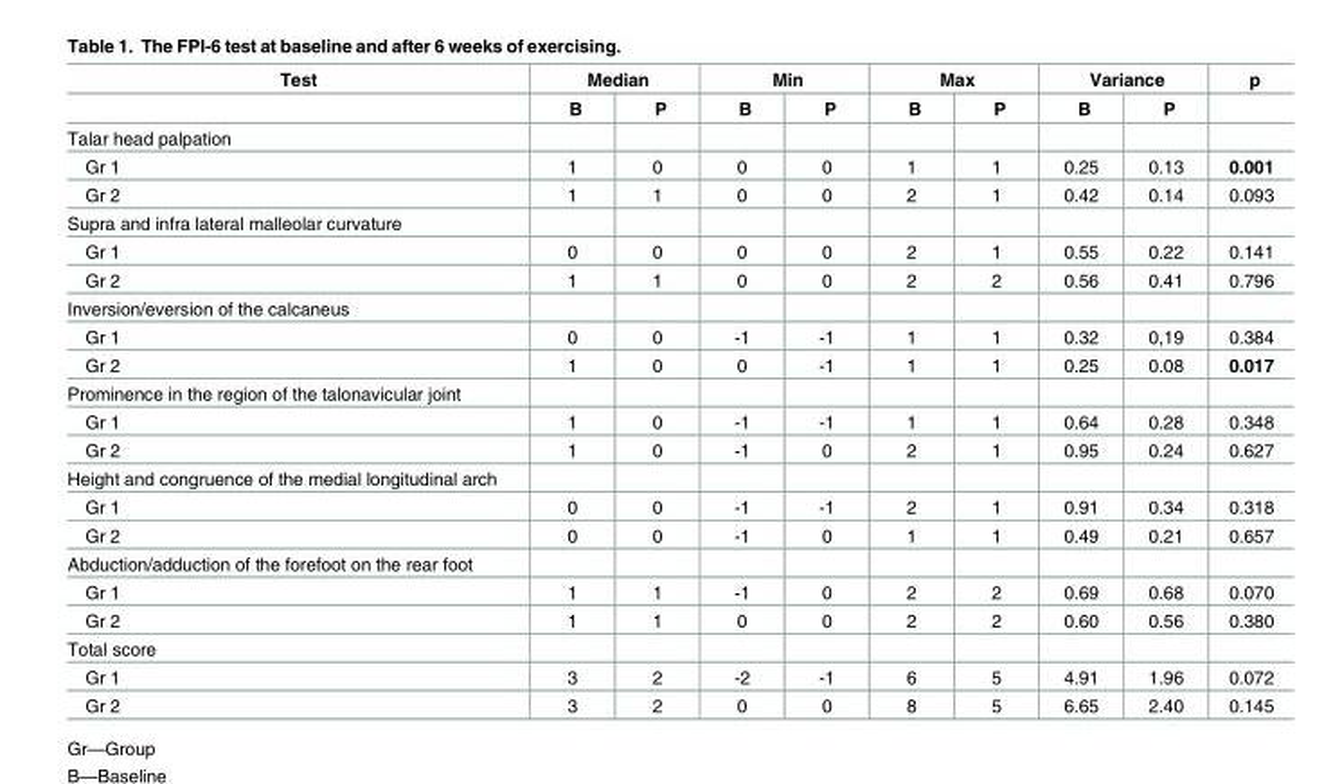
<table><thead><tr><td rowspan="2">Test</td><td colspan="2">Median</td><td colspan="2">Min</td><td colspan="2">Max</td><td colspan="2">Variance</td><td rowspan="2">p</td></tr><tr><td>B</td><td>P</td><td>B</td><td>P</td><td>B</td><td>P</td><td>B</td><td>P</td></tr></thead><tbody><tr><td colspan="10">Talar head palpation</td></tr><tr><td>Gr 1</td><td>1</td><td>0</td><td>0</td><td>0</td><td>1</td><td>1</td><td>0.25</td><td>0.13</td><td>0.001</td></tr><tr><td>Gr 2</td><td>1</td><td>1</td><td>0</td><td>0</td><td>2</td><td>1</td><td>0.42</td><td>0.14</td><td>0.093</td></tr><tr><td colspan="10">Supra and infra lateral malleolar curvature</td></tr><tr><td>Gr 1</td><td>0</td><td>0</td><td>0</td><td>0</td><td>2</td><td>1</td><td>0.55</td><td>0.22</td><td>0.141</td></tr><tr><td>Gr 2</td><td>1</td><td>1</td><td>0</td><td>0</td><td>2</td><td>2</td><td>0.56</td><td>0.41</td><td>0.796</td></tr><tr><td colspan="10">Inversion/eversion of the calcaneus</td></tr><tr><td>Gr 1</td><td>0</td><td>0</td><td>-1</td><td>-1</td><td>1</td><td>1</td><td>0.32</td><td>0,19</td><td>0.384</td></tr><tr><td>Gr 2</td><td>1</td><td>0</td><td>0</td><td>-1</td><td>1</td><td>1</td><td>0.25</td><td>0.08</td><td>0.017</td></tr><tr><td colspan="10">Prominence in the region of the talonavicular joint</td></tr><tr><td>Gr 1</td><td>1</td><td>0</td><td>-1</td><td>-1</td><td>1</td><td>1</td><td>0.64</td><td>0.28</td><td>0.348</td></tr><tr><td>Gr 2</td><td>1</td><td>0</td><td>-1</td><td>0</td><td>2</td><td>1</td><td>0.95</td><td>0.24</td><td>0.627</td></tr><tr><td colspan="10">Height and congruence of the medial longitudinal arch</td></tr><tr><td>Gr 1</td><td>0</td><td>0</td><td>-1</td><td>-1</td><td>2</td><td>1</td><td>0.91</td><td>0.34</td><td>0.318</td></tr><tr><td>Gr 2</td><td>0</td><td>0</td><td>-1</td><td>0</td><td>1</td><td>1</td><td>0.49</td><td>0.21</td><td>0.657</td></tr><tr><td colspan="10">Abduction/adduction of the forefoot on the rear foot</td></tr><tr><td>Gr 1</td><td>1</td><td>1</td><td>-1</td><td>0</td><td>2</td><td>2</td><td>0.69</td><td>0.68</td><td>0.070</td></tr><tr><td>Gr 2</td><td>1</td><td>1</td><td>0</td><td>0</td><td>2</td><td>2</td><td>0.60</td><td>0.56</td><td>0.380</td></tr><tr><td colspan="10">Total score</td></tr><tr><td>Gr 1</td><td>3</td><td>2</td><td>-2</td><td>-1</td><td>6</td><td>5</td><td>4.91</td><td>1.96</td><td>0.072</td></tr><tr><td>Gr 2</td><td>3</td><td>2</td><td>0</td><td>0</td><td>8</td><td>5</td><td>6.65</td><td>2.40</td><td>0.145</td></tr></tbody></table>